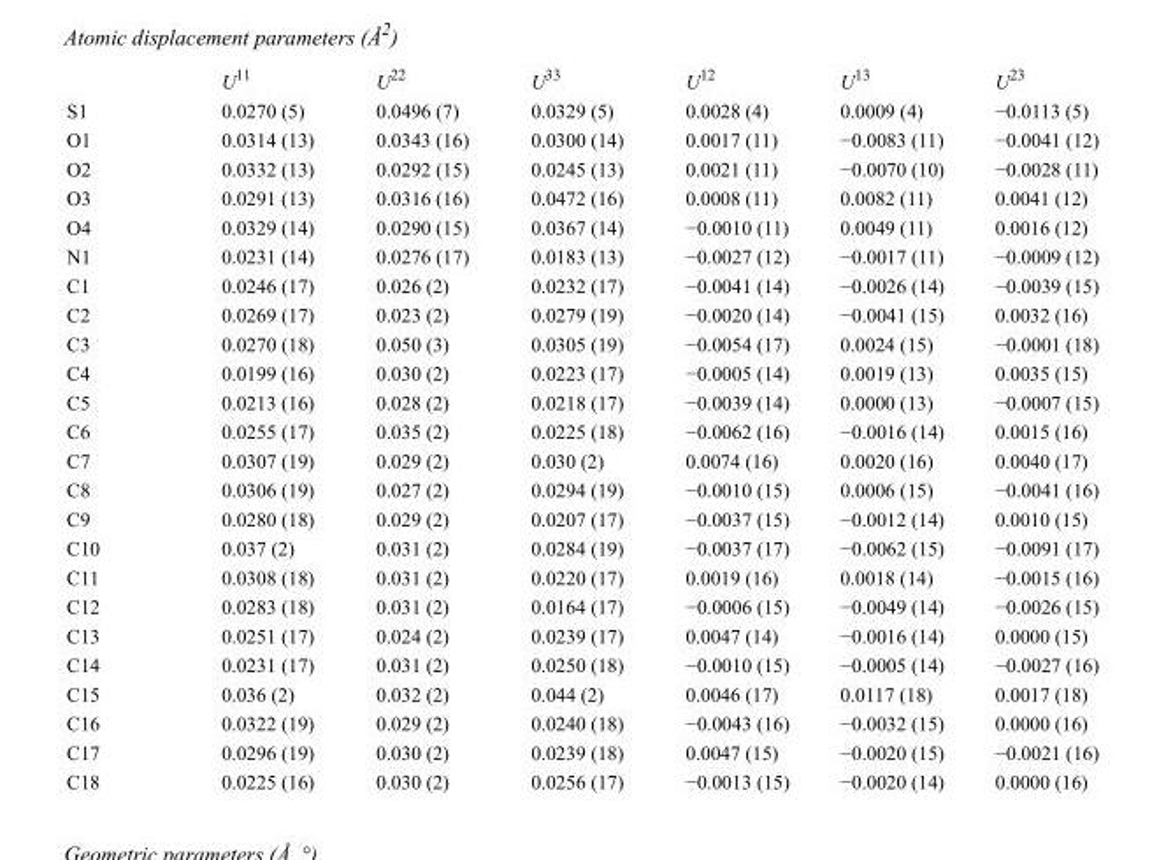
<table><thead><tr><td></td><td>U<sup>11</sup></td><td>U<sup>22</sup></td><td>U<sup>33</sup></td><td>U<sup>12</sup></td><td>U<sup>13</sup></td><td>U<sup>23</sup></td></tr></thead><tbody><tr><td>S1</td><td>0.0270 (5)</td><td>0.0496 (7)</td><td>0.0329 (5)</td><td>0.0028 (4)</td><td>0.0009 (4)</td><td>−0.0113 (5)</td></tr><tr><td>O1</td><td>0.0314 (13)</td><td>0.0343 (16)</td><td>0.0300 (14)</td><td>0.0017 (11)</td><td>−0.0083 (11)</td><td>−0.0041 (12)</td></tr><tr><td>O2</td><td>0.0332 (13)</td><td>0.0292 (15)</td><td>0.0245 (13)</td><td>0.0021 (11)</td><td>−0.0070 (10)</td><td>−0.0028 (11)</td></tr><tr><td>O3</td><td>0.0291 (13)</td><td>0.0316 (16)</td><td>0.0472 (16)</td><td>0.0008 (11)</td><td>0.0082 (11)</td><td>0.0041 (12)</td></tr><tr><td>O4</td><td>0.0329 (14)</td><td>0.0290 (15)</td><td>0.0367 (14)</td><td>−0.0010 (11)</td><td>0.0049 (11)</td><td>0.0016 (12)</td></tr><tr><td>N1</td><td>0.0231 (14)</td><td>0.0276 (17)</td><td>0.0183 (13)</td><td>−0.0027 (12)</td><td>−0.0017 (11)</td><td>−0.0009 (12)</td></tr><tr><td>C1</td><td>0.0246 (17)</td><td>0.026 (2)</td><td>0.0232 (17)</td><td>−0.0041 (14)</td><td>−0.0026 (14)</td><td>−0.0039 (15)</td></tr><tr><td>C2</td><td>0.0269 (17)</td><td>0.023 (2)</td><td>0.0279 (19)</td><td>−0.0020 (14)</td><td>−0.0041 (15)</td><td>0.0032 (16)</td></tr><tr><td>C3</td><td>0.0270 (18)</td><td>0.050 (3)</td><td>0.0305 (19)</td><td>−0.0054 (17)</td><td>0.0024 (15)</td><td>−0.0001 (18)</td></tr><tr><td>C4</td><td>0.0199 (16)</td><td>0.030 (2)</td><td>0.0223 (17)</td><td>−0.0005 (14)</td><td>0.0019 (13)</td><td>0.0035 (15)</td></tr><tr><td>C5</td><td>0.0213 (16)</td><td>0.028 (2)</td><td>0.0218 (17)</td><td>−0.0039 (14)</td><td>0.0000 (13)</td><td>−0.0007 (15)</td></tr><tr><td>C6</td><td>0.0255 (17)</td><td>0.035 (2)</td><td>0.0225 (18)</td><td>−0.0062 (16)</td><td>−0.0016 (14)</td><td>0.0015 (16)</td></tr><tr><td>C7</td><td>0.0307 (19)</td><td>0.029 (2)</td><td>0.030 (2)</td><td>0.0074 (16)</td><td>0.0020 (16)</td><td>0.0040 (17)</td></tr><tr><td>C8</td><td>0.0306 (19)</td><td>0.027 (2)</td><td>0.0294 (19)</td><td>−0.0010 (15)</td><td>0.0006 (15)</td><td>−0.0041 (16)</td></tr><tr><td>C9</td><td>0.0280 (18)</td><td>0.029 (2)</td><td>0.0207 (17)</td><td>−0.0037 (15)</td><td>−0.0012 (14)</td><td>0.0010 (15)</td></tr><tr><td>C10</td><td>0.037 (2)</td><td>0.031 (2)</td><td>0.0284 (19)</td><td>−0.0037 (17)</td><td>−0.0062 (15)</td><td>−0.0091 (17)</td></tr><tr><td>C11</td><td>0.0308 (18)</td><td>0.031 (2)</td><td>0.0220 (17)</td><td>0.0019 (16)</td><td>0.0018 (14)</td><td>−0.0015 (16)</td></tr><tr><td>C12</td><td>0.0283 (18)</td><td>0.031 (2)</td><td>0.0164 (17)</td><td>−0.0006 (15)</td><td>−0.0049 (14)</td><td>−0.0026 (15)</td></tr><tr><td>C13</td><td>0.0251 (17)</td><td>0.024 (2)</td><td>0.0239 (17)</td><td>0.0047 (14)</td><td>−0.0016 (14)</td><td>0.0000 (15)</td></tr><tr><td>C14</td><td>0.0231 (17)</td><td>0.031 (2)</td><td>0.0250 (18)</td><td>−0.0010 (15)</td><td>−0.0005 (14)</td><td>−0.0027 (16)</td></tr><tr><td>C15</td><td>0.036 (2)</td><td>0.032 (2)</td><td>0.044 (2)</td><td>0.0046 (17)</td><td>0.0117 (18)</td><td>0.0017 (18)</td></tr><tr><td>C16</td><td>0.0322 (19)</td><td>0.029 (2)</td><td>0.0240 (18)</td><td>−0.0043 (16)</td><td>−0.0032 (15)</td><td>0.0000 (16)</td></tr><tr><td>C17</td><td>0.0296 (19)</td><td>0.030 (2)</td><td>0.0239 (18)</td><td>0.0047 (15)</td><td>−0.0020 (15)</td><td>−0.0021 (16)</td></tr><tr><td>C18</td><td>0.0225 (16)</td><td>0.030 (2)</td><td>0.0256 (17)</td><td>−0.0013 (15)</td><td>−0.0020 (14)</td><td>0.0000 (16)</td></tr></tbody></table>